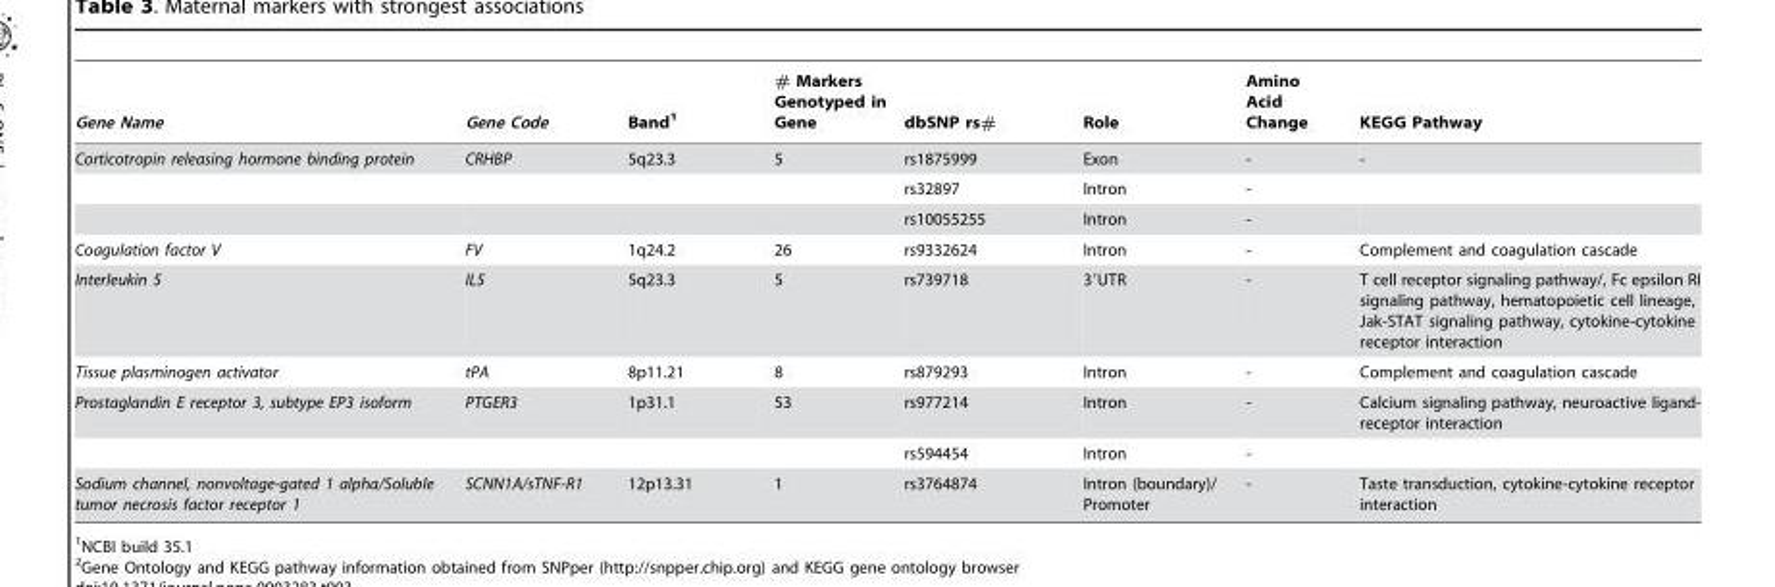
<table><thead><tr><td>Gene Name</td><td>Gene Code</td><td>Band<sup>1</sup></td><td># Markers Genotyped in Gene</td><td>dbSNP rs#</td><td>Role</td><td>Amino Acid Change</td><td>KEGG Pathway</td></tr></thead><tbody><tr><td rowspan="3">Corticotropin releasing hormone binding protein</td><td>CRHBP</td><td>5q23.3</td><td>5</td><td>rs1875999</td><td>Exon</td><td>-</td><td>-</td></tr><tr><td></td><td></td><td></td><td>rs32897</td><td>Intron</td><td>-</td><td></td></tr><tr><td></td><td></td><td></td><td>rs10055255</td><td>Intron</td><td>-</td><td></td></tr><tr><td>Coagulation factor V</td><td>FV</td><td>1q24.2</td><td>26</td><td>rs9332624</td><td>Intron</td><td>-</td><td>Complement and coagulation cascade</td></tr><tr><td>Interleukin 5</td><td>IL5</td><td>5q23.3</td><td>5</td><td>rs739718</td><td>3′UTR</td><td>-</td><td>T cell receptor signaling pathway/, Fc epsilon RI signaling pathway, hematopoietic cell lineage, Jak-STAT signaling pathway, cytokine-cytokine receptor interaction</td></tr><tr><td>Tissue plasminogen activator</td><td>tPA</td><td>8p11.21</td><td>8</td><td>rs879293</td><td>Intron</td><td>-</td><td>Complement and coagulation cascade</td></tr><tr><td rowspan="2">Prostaglandin E receptor 3, subtype EP3 isoform</td><td>PTGER3</td><td>1p31.1</td><td>53</td><td>rs977214</td><td>Intron</td><td>-</td><td>Calcium signaling pathway, neuroactive ligand- receptor interaction</td></tr><tr><td></td><td></td><td></td><td>rs594454</td><td>Intron</td><td>-</td><td></td></tr><tr><td>Sodium channel, nonvoltage-gated 1 alpha/Soluble tumor necrosis factor receptor 1</td><td>SCNN1A/sTNF-R1</td><td>12p13.31</td><td>1</td><td>rs3764874</td><td>Intron (boundary)/ Promoter</td><td>-</td><td>Taste transduction, cytokine-cytokine receptor interaction</td></tr></tbody></table>